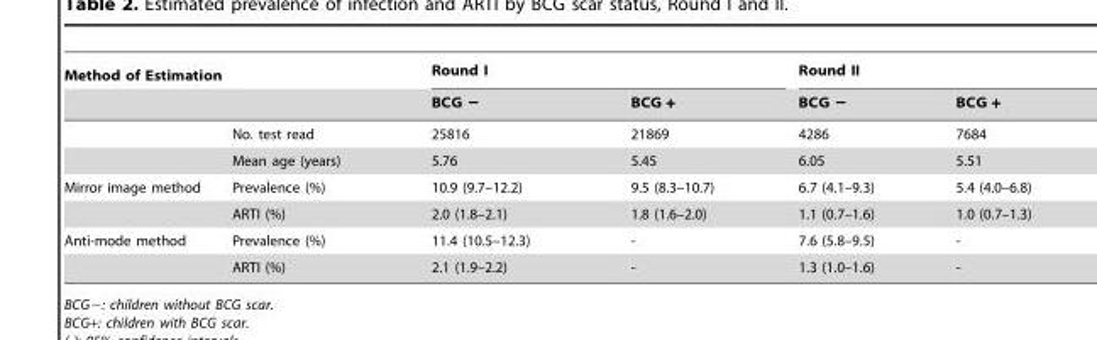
<table><thead><tr><td rowspan="2">Method of Estimation</td><td rowspan="2"></td><td colspan="2">Round I</td><td colspan="2">Round II</td></tr><tr><td>BCG −</td><td>BCG +</td><td>BCG −</td><td>BCG +</td></tr></thead><tbody><tr><td></td><td>No. test read</td><td>25816</td><td>21869</td><td>4286</td><td>7684</td></tr><tr><td></td><td>Mean age (years)</td><td>5.76</td><td>5.45</td><td>6.05</td><td>5.51</td></tr><tr><td rowspan="2">Mirror image method</td><td>Prevalence (%)</td><td>10.9 (9.7–12.2)</td><td>9.5 (8.3–10.7)</td><td>6.7 (4.1–9.3)</td><td>5.4 (4.0–6.8)</td></tr><tr><td>ARTI (%)</td><td>2.0 (1.8–2.1)</td><td>1.8 (1.6–2.0)</td><td>1.1 (0.7–1.6)</td><td>1.0 (0.7–1.3)</td></tr><tr><td rowspan="2">Anti-mode method</td><td>Prevalence (%)</td><td>11.4 (10.5–12.3)</td><td>-</td><td>7.6 (5.8–9.5)</td><td>-</td></tr><tr><td>ARTI (%)</td><td>2.1 (1.9–2.2)</td><td>-</td><td>1.3 (1.0–1.6)</td><td>-</td></tr></tbody></table>